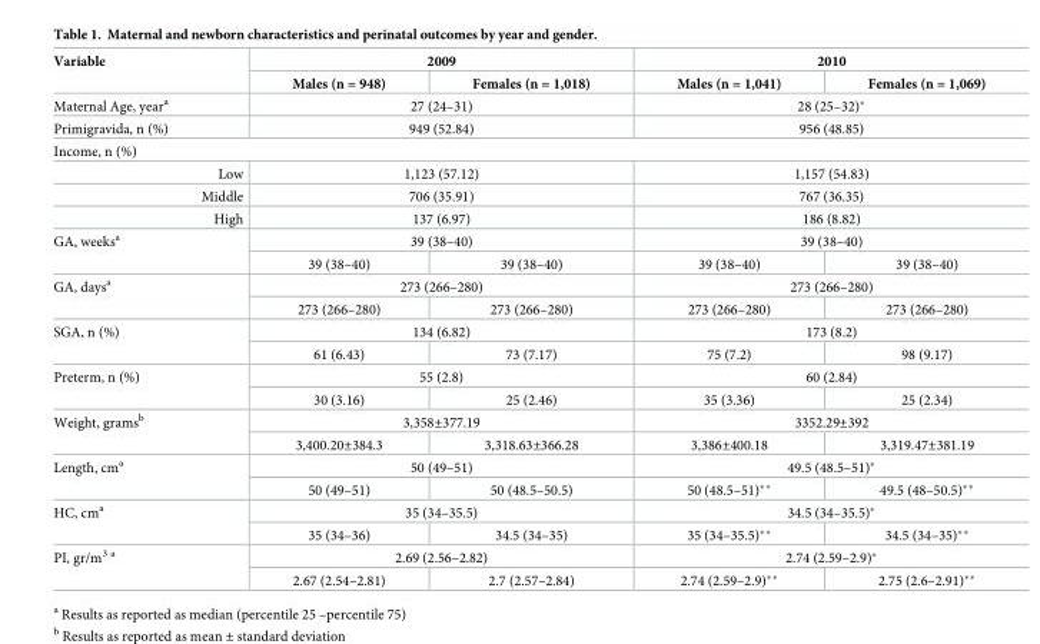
<table><thead><tr><td rowspan="2">Variable</td><td colspan="2">2009</td><td colspan="2">2010</td></tr><tr><td>Males (n = 948)</td><td>Females (n = 1,018)</td><td>Males (n = 1,041)</td><td>Females (n = 1,069)</td></tr></thead><tbody><tr><td>Maternal Age, year<sup>a</sup></td><td colspan="2">27 (24–31)</td><td colspan="2">28 (25–32)*</td></tr><tr><td>Primigravida, n (%)</td><td colspan="2">949 (52.84)</td><td colspan="2">956 (48.85)</td></tr><tr><td colspan="5">Income, n (%)</td></tr><tr><td>Low</td><td colspan="2">1,123 (57.12)</td><td colspan="2">1,157 (54.83)</td></tr><tr><td>Middle</td><td colspan="2">706 (35.91)</td><td colspan="2">767 (36.35)</td></tr><tr><td>High</td><td colspan="2">137 (6.97)</td><td colspan="2">186 (8.82)</td></tr><tr><td rowspan="2">GA, weeks<sup>a</sup></td><td colspan="2">39 (38–40)</td><td colspan="2">39 (38–40)</td></tr><tr><td>39 (38–40)</td><td>39 (38–40)</td><td>39 (38–40)</td><td>39 (38–40)</td></tr><tr><td rowspan="2">GA, days<sup>a</sup></td><td colspan="2">273 (266–280)</td><td colspan="2">273 (266–280)</td></tr><tr><td>273 (266–280)</td><td>273 (266–280)</td><td>273 (266–280)</td><td>273 (266–280)</td></tr><tr><td rowspan="2">SGA, n (%)</td><td colspan="2">134 (6.82)</td><td colspan="2">173 (8.2)</td></tr><tr><td>61 (6.43)</td><td>73 (7.17)</td><td>75 (7.2)</td><td>98 (9.17)</td></tr><tr><td rowspan="2">Preterm, n (%)</td><td colspan="2">55 (2.8)</td><td colspan="2">60 (2.84)</td></tr><tr><td>30 (3.16)</td><td>25 (2.46)</td><td>35 (3.36)</td><td>25 (2.34)</td></tr><tr><td rowspan="2">Weight, grams<sup>b</sup></td><td colspan="2">3,358±377.19</td><td colspan="2">3352.29±392</td></tr><tr><td>3,400.20±384.3</td><td>3,318.63±366.28</td><td>3,386±400.18</td><td>3,319.47±381.19</td></tr><tr><td rowspan="2">Length, cm<sup>a</sup></td><td colspan="2">50 (49–51)</td><td colspan="2">49.5 (48.5–51)*</td></tr><tr><td>50 (49–51)</td><td>50 (48.5–50.5)</td><td>50 (48.5–51)**</td><td>49.5 (48–50.5)**</td></tr><tr><td rowspan="2">HC, cm<sup>a</sup></td><td colspan="2">35 (34–35.5)</td><td colspan="2">34.5 (34–35.5)*</td></tr><tr><td>35 (34–36)</td><td>34.5 (34–35)</td><td>35 (34–35.5)**</td><td>34.5 (34–35)**</td></tr><tr><td rowspan="2">PI, gr/m<sup>3 a</sup></td><td colspan="2">2.69 (2.56–2.82)</td><td colspan="2">2.74 (2.59–2.9)*</td></tr><tr><td>2.67 (2.54–2.81)</td><td>2.7 (2.57–2.84)</td><td>2.74 (2.59–2.9)**</td><td>2.75 (2.6–2.91)**</td></tr></tbody></table>